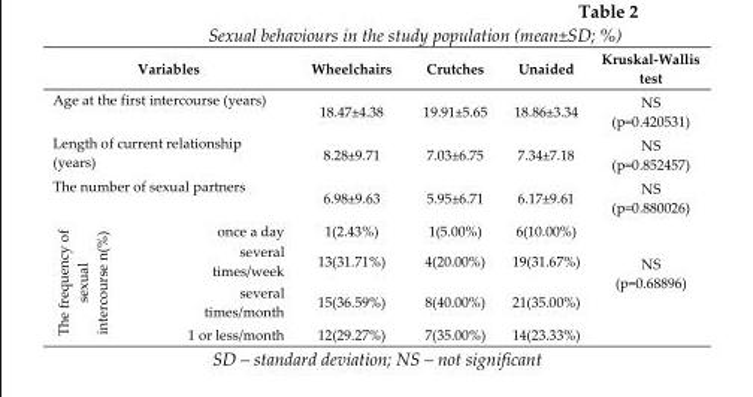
<table><thead><tr><td colspan="2">Variables</td><td>Wheelchairs</td><td>Crutches</td><td>Unaided</td><td>Kruskal-Wallis test</td></tr></thead><tbody><tr><td colspan="2">Age at the first intercourse (years)</td><td>18.47±4.38</td><td>19.91±5.65</td><td>18.86±3.34</td><td>NS (p=0.420531)</td></tr><tr><td colspan="2">Length of current relationship (years)</td><td>8.28±9.71</td><td>7.03±6.75</td><td>7.34±7.18</td><td>NS (p=0.852457)</td></tr><tr><td colspan="2">The number of sexual partners</td><td>6.98±9.63</td><td>5.95±6.71</td><td>6.17±9.61</td><td>NS (p=0.880026)</td></tr><tr><td rowspan="4">The frequency of sexual intercourse n(%)</td><td>once a day</td><td>1(2.43%)</td><td>1(5.00%)</td><td>6(10.00%)</td><td rowspan="4">NS (p=0.68896)</td></tr><tr><td>several times/week</td><td>13(31.71%)</td><td>4(20.00%)</td><td>19(31.67%)</td></tr><tr><td>several times/month</td><td>15(36.59%)</td><td>8(40.00%)</td><td>21(35.00%)</td></tr><tr><td>1 or less/month</td><td>12(29.27%)</td><td>7(35.00%)</td><td>14(23.33%)</td></tr></tbody></table>